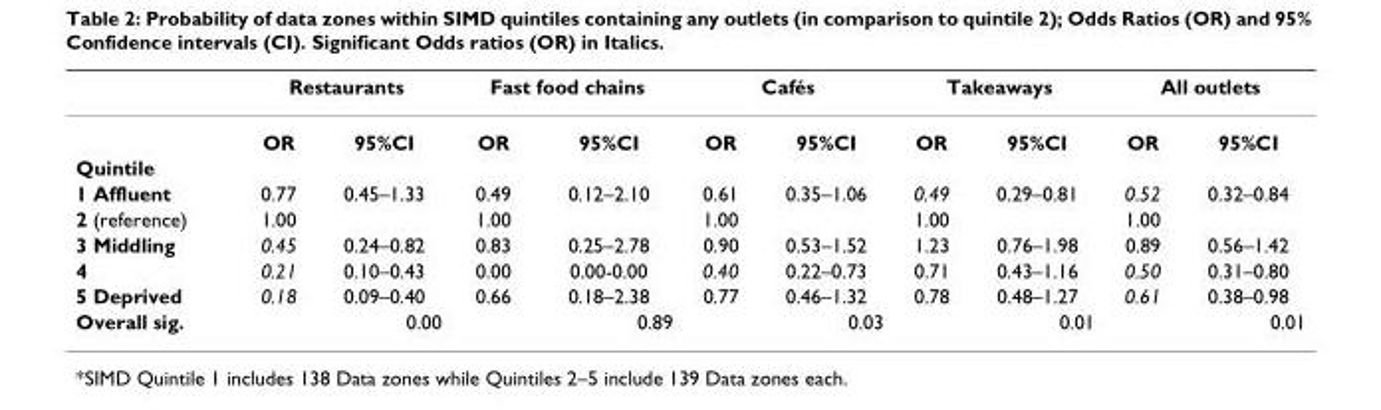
<table><thead><tr><td rowspan="2"></td><td colspan="2">Restaurants</td><td colspan="2">Fast food chains</td><td colspan="2">Cafés</td><td colspan="2">Takeaways</td><td colspan="2">All outlets</td></tr><tr><td>OR</td><td>95%CI</td><td>OR</td><td>95%CI</td><td>OR</td><td>95%CI</td><td>OR</td><td>95%CI</td><td>OR</td><td>95%CI</td></tr></thead><tbody><tr><td colspan="11">Quintile</td></tr><tr><td>1 Affluent</td><td>0.77</td><td>0.45–1.33</td><td>0.49</td><td>0.12–2.10</td><td>0.61</td><td>0.35–1.06</td><td>0.49</td><td>0.29–0.81</td><td>0.52</td><td>0.32–0.84</td></tr><tr><td>2 (reference)</td><td>1.00</td><td></td><td>1.00</td><td></td><td>1.00</td><td></td><td>1.00</td><td></td><td>1.00</td><td></td></tr><tr><td>3 Middling</td><td>0.45</td><td>0.24–0.82</td><td>0.83</td><td>0.25–2.78</td><td>0.90</td><td>0.53–1.52</td><td>1.23</td><td>0.76–1.98</td><td>0.89</td><td>0.56–1.42</td></tr><tr><td>4</td><td>0.21</td><td>0.10–0.43</td><td>0.00</td><td>0.00-0.00</td><td>0.40</td><td>0.22–0.73</td><td>0.71</td><td>0.43–1.16</td><td>0.50</td><td>0.31–0.80</td></tr><tr><td>5 Deprived</td><td>0.18</td><td>0.09–0.40</td><td>0.66</td><td>0.18–2.38</td><td>0.77</td><td>0.46–1.32</td><td>0.78</td><td>0.48–1.27</td><td>0.61</td><td>0.38–0.98</td></tr><tr><td>Overall sig.</td><td></td><td>0.00</td><td></td><td>0.89</td><td></td><td>0.03</td><td></td><td>0.01</td><td></td><td>0.01</td></tr></tbody></table>